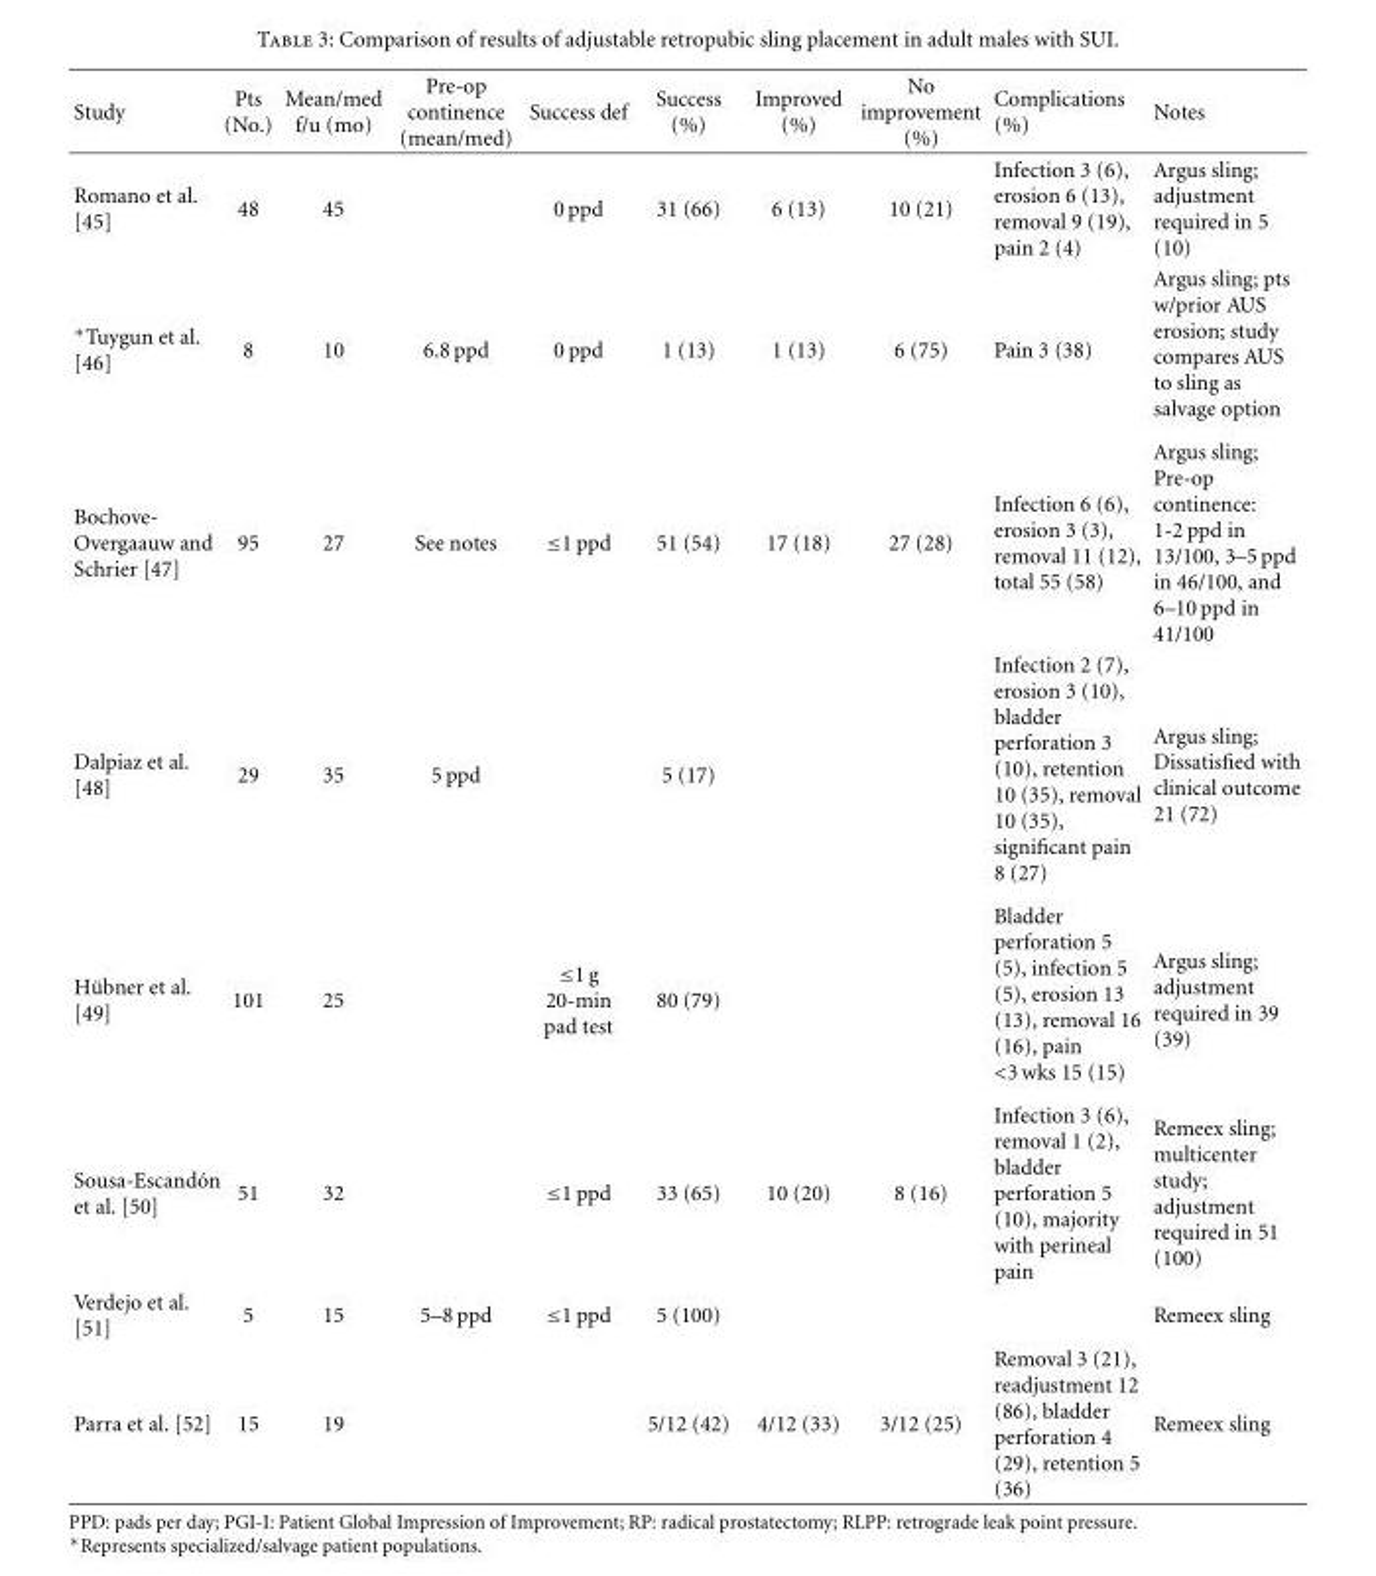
<table><thead><tr><td>Study</td><td>Pts (No.)</td><td>Mean/med f/u (mo)</td><td>Pre-op continence (mean/med)</td><td>Success def</td><td>Success (%)</td><td>Improved (%)</td><td>No improvement (%)</td><td>Complications (%)</td><td>Notes</td></tr></thead><tbody><tr><td>Romano et al. [45]</td><td>48</td><td>45</td><td></td><td>0 ppd</td><td>31 (66)</td><td>6 (13)</td><td>10 (21)</td><td>Infection 3 (6), erosion 6 (13), removal 9 (19), pain 2 (4)</td><td>Argus sling; adjustment required in 5 (10)</td></tr><tr><td>∗Tuygun et al. [46]</td><td>8</td><td>10</td><td>6.8 ppd</td><td>0 ppd</td><td>1 (13)</td><td>1 (13)</td><td>6 (75)</td><td>Pain 3 (38)</td><td>Argus sling; pts w/prior AUS erosion; study compares AUS to sling as salvage option</td></tr><tr><td>Bochove- Overgaauw and Schrier [47]</td><td>95</td><td>27</td><td>See notes</td><td>≤1 ppd</td><td>51 (54)</td><td>17 (18)</td><td>27 (28)</td><td>Infection 6 (6), erosion 3 (3), removal 11 (12), total 55 (58)</td><td>Argus sling; Pre-op continence: 1-2 ppd in 13/100, 3–5 ppd in 46/100, and 6–10 ppd in 41/100</td></tr><tr><td>Dalpiaz et al. [48]</td><td>29</td><td>35</td><td>5 ppd</td><td></td><td>5 (17)</td><td></td><td></td><td>Infection 2 (7), erosion 3 (10), bladder perforation 3 (10), retention 10 (35), removal 10 (35), significant pain 8 (27)</td><td>Argus sling; Dissatisfied with clinical outcome 21 (72)</td></tr><tr><td>H¨ubner et al. [49]</td><td>101</td><td>25</td><td></td><td>≤1 g 20-min pad test</td><td>80 (79)</td><td></td><td></td><td>Bladder perforation 5 (5), infection 5 (5), erosion 13 (13), removal 16 (16), pain &lt;3 wks 15 (15)</td><td>Argus sling; adjustment required in 39 (39)</td></tr><tr><td>Sousa-Escand´on et al. [50]</td><td>51</td><td>32</td><td></td><td>≤1 ppd</td><td>33 (65)</td><td>10 (20)</td><td>8 (16)</td><td>Infection 3 (6), removal 1 (2), bladder perforation 5 (10), majority with perineal pain</td><td>Remeex sling; multicenter study; adjustment required in 51 (100)</td></tr><tr><td>Verdejo et al. [51]</td><td>5</td><td>15</td><td>5–8 ppd</td><td>≤1 ppd</td><td>5 (100)</td><td></td><td></td><td></td><td>Remeex sling</td></tr><tr><td>Parra et al. [52]</td><td>15</td><td>19</td><td></td><td></td><td>5/12 (42)</td><td>4/12 (33)</td><td>3/12 (25)</td><td>Removal 3 (21), readjustment 12 (86), bladder perforation 4 (29), retention 5 (36)</td><td>Remeex sling</td></tr></tbody></table>